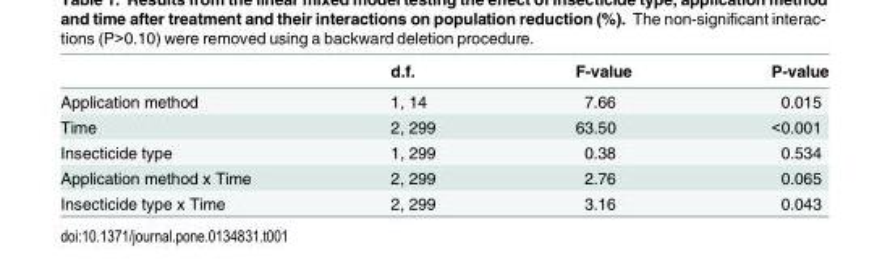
<table><thead><tr><td></td><td>d.f.</td><td>F-value</td><td>P-value</td></tr></thead><tbody><tr><td>Application method</td><td>1, 14</td><td>7.66</td><td>0.015</td></tr><tr><td>Time</td><td>2, 299</td><td>63.50</td><td>&lt;0.001</td></tr><tr><td>Insecticide type</td><td>1, 299</td><td>0.38</td><td>0.534</td></tr><tr><td>Application method x Time</td><td>2, 299</td><td>2.76</td><td>0.065</td></tr><tr><td>Insecticide type x Time</td><td>2, 299</td><td>3.16</td><td>0.043</td></tr></tbody></table>